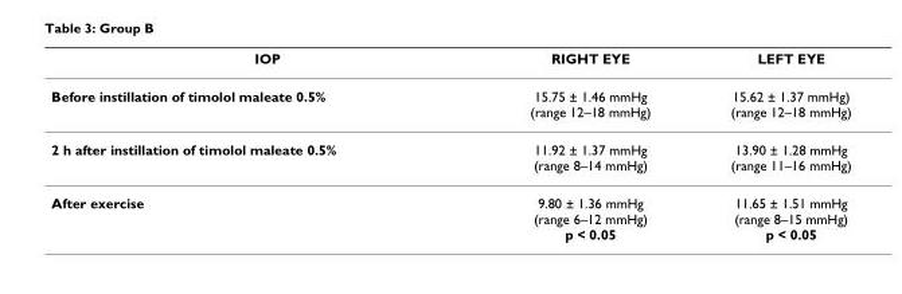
<table><thead><tr><td>IOP</td><td>RIGHT EYE</td><td>LEFT EYE</td></tr></thead><tbody><tr><td>Before instillation of timolol maleate 0.5%</td><td>15.75 ± 1.46 mmHg (range 12–18 mmHg)</td><td>15.62 ± 1.37 mmHg) (range 12–18 mmHg)</td></tr><tr><td>2 h after instillation of timolol maleate 0.5%</td><td>11.92 ± 1.37 mmHg (range 8–14 mmHg)</td><td>13.90 ± 1.28 mmHg (range 11–16 mmHg)</td></tr><tr><td>After exercise</td><td>9.80 ± 1.36 mmHg (range 6–12 mmHg) p &lt; 0.05</td><td>11.65 ± 1.51 mmHg (range 8–15 mmHg) p &lt; 0.05</td></tr></tbody></table>